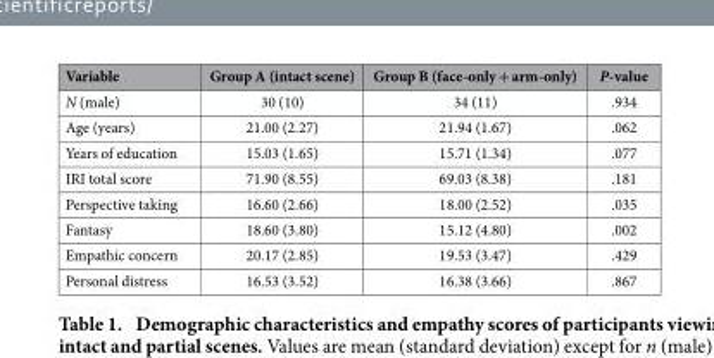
<table><thead><tr><td>Variable</td><td>Group A (intact scene)</td><td>Group B (face-only + arm-only)</td><td>P-value</td></tr></thead><tbody><tr><td>N (male)</td><td>30 (10)</td><td>34 (11)</td><td>.934</td></tr><tr><td>Age (years)</td><td>21.00 (2.27)</td><td>21.94 (1.67)</td><td>.062</td></tr><tr><td>Years of education</td><td>15.03 (1.65)</td><td>15.71 (1.34)</td><td>.077</td></tr><tr><td>IRI total score</td><td>71.90 (8.55)</td><td>69.03 (8.38)</td><td>.181</td></tr><tr><td>Perspective taking</td><td>16.60 (2.66)</td><td>18.00 (2.52)</td><td>.035</td></tr><tr><td>Fantasy</td><td>18.60 (3.80)</td><td>15.12 (4.80)</td><td>.002</td></tr><tr><td>Empathic concern</td><td>20.17 (2.85)</td><td>19.53 (3.47)</td><td>.429</td></tr><tr><td>Personal distress</td><td>16.53 (3.52)</td><td>16.38 (3.66)</td><td>.867</td></tr></tbody></table>